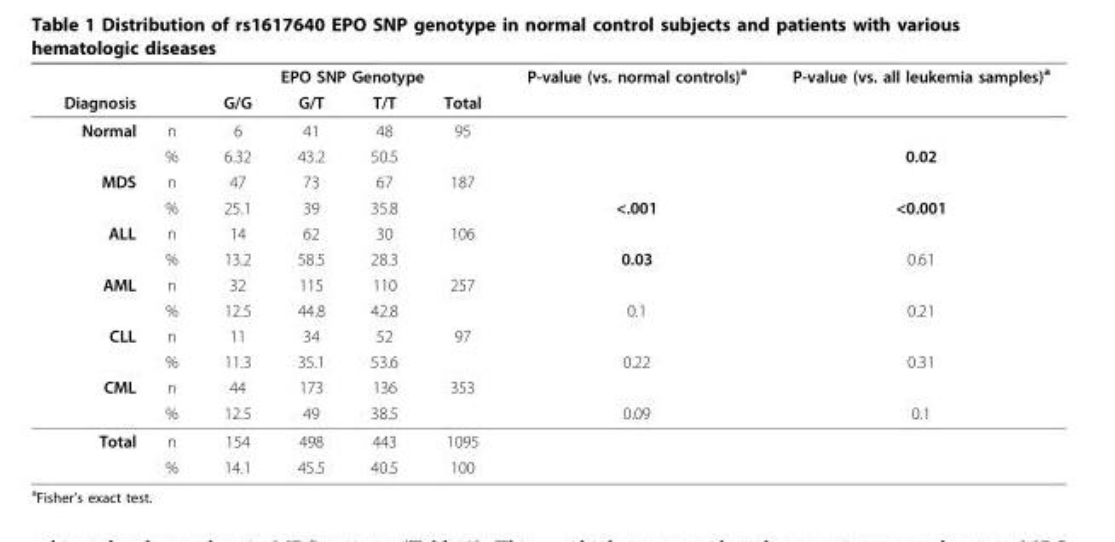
<table><thead><tr><td rowspan="2">Diagnosis</td><td rowspan="2"></td><td colspan="4">EPO SNP Genotype</td><td rowspan="2">P-value (vs. normal controls)<sup>a</sup></td><td rowspan="2">P-value (vs. all leukemia samples)<sup>a</sup></td></tr><tr><td>G/G</td><td>G/T</td><td>T/T</td><td>Total</td></tr></thead><tbody><tr><td rowspan="2">Normal</td><td>n</td><td>6</td><td>41</td><td>48</td><td>95</td><td></td><td></td></tr><tr><td>%</td><td>6.32</td><td>43.2</td><td>50.5</td><td></td><td></td><td>0.02</td></tr><tr><td rowspan="2">MDS</td><td>n</td><td>47</td><td>73</td><td>67</td><td>187</td><td></td><td></td></tr><tr><td>%</td><td>25.1</td><td>39</td><td>35.8</td><td></td><td>&lt;.001</td><td>&lt;0.001</td></tr><tr><td rowspan="2">ALL</td><td>n</td><td>14</td><td>62</td><td>30</td><td>106</td><td></td><td></td></tr><tr><td>%</td><td>13.2</td><td>58.5</td><td>28.3</td><td></td><td>0.03</td><td>0.61</td></tr><tr><td rowspan="2">AML</td><td>n</td><td>32</td><td>115</td><td>110</td><td>257</td><td></td><td></td></tr><tr><td>%</td><td>12.5</td><td>44.8</td><td>42.8</td><td></td><td>0.1</td><td>0.21</td></tr><tr><td rowspan="2">CLL</td><td>n</td><td>11</td><td>34</td><td>52</td><td>97</td><td></td><td></td></tr><tr><td>%</td><td>11.3</td><td>35.1</td><td>53.6</td><td></td><td>0.22</td><td>0.31</td></tr><tr><td rowspan="2">CML</td><td>n</td><td>44</td><td>173</td><td>136</td><td>353</td><td></td><td></td></tr><tr><td>%</td><td>12.5</td><td>49</td><td>38.5</td><td></td><td>0.09</td><td>0.1</td></tr><tr><td rowspan="2">Total</td><td>n</td><td>154</td><td>498</td><td>443</td><td>1095</td><td></td><td></td></tr><tr><td>%</td><td>14.1</td><td>45.5</td><td>40.5</td><td>100</td><td></td><td></td></tr></tbody></table>